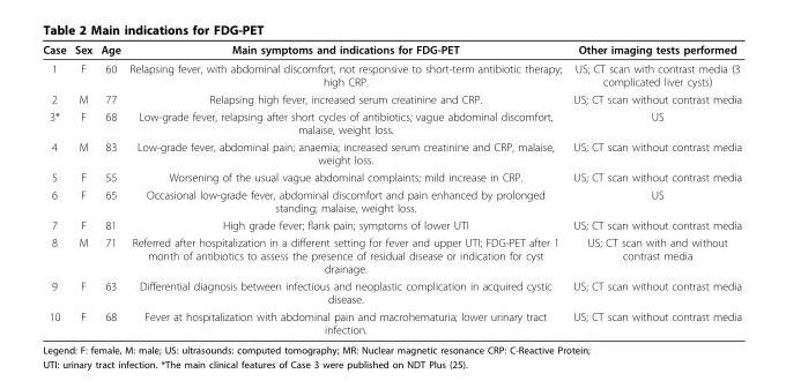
<table><thead><tr><td>Case</td><td>Sex</td><td>Age</td><td>Main symptoms and indications for FDG-PET</td><td>Other imaging tests performed</td></tr></thead><tbody><tr><td>1</td><td>F</td><td>60</td><td>Relapsing fever, with abdominal discomfort, not responsive to short-term antibiotic therapy; high CRP.</td><td>US; CT scan with contrast media (3 complicated liver cysts)</td></tr><tr><td>2</td><td>M</td><td>77</td><td>Relapsing high fever, increased serum creatinine and CRP.</td><td>US; CT scan without contrast media</td></tr><tr><td>3*</td><td>F</td><td>68</td><td>Low-grade fever, relapsing after short cycles of antibiotics; vague abdominal discomfort, malaise, weight loss.</td><td>US</td></tr><tr><td>4</td><td>M</td><td>83</td><td>Low-grade fever, abdominal pain; anaemia; increased serum creatinine and CRP, malaise, weight loss.</td><td>US; CT scan without contrast media</td></tr><tr><td>5</td><td>F</td><td>55</td><td>Worsening of the usual vague abdominal complaints; mild increase in CRP.</td><td>US; CT scan without contrast media</td></tr><tr><td>6</td><td>F</td><td>65</td><td>Occasional low-grade fever, abdominal discomfort and pain enhanced by prolonged standing; malaise, weight loss.</td><td>US</td></tr><tr><td>7</td><td>F</td><td>81</td><td>High grade fever; flank pain; symptoms of lower UTI</td><td>US; CT scan without contrast media</td></tr><tr><td>8</td><td>M</td><td>71</td><td>Referred after hospitalization in a different setting for fever and upper UTI; FDG-PET after 1 month of antibiotics to assess the presence of residual disease or indication for cyst drainage.</td><td>US; CT scan with and without contrast media</td></tr><tr><td>9</td><td>F</td><td>63</td><td>Differential diagnosis between infectious and neoplastic complication in acquired cystic disease.</td><td>US; CT scan without contrast media</td></tr><tr><td>10</td><td>F</td><td>68</td><td>Fever at hospitalization with abdominal pain and macrohematuria; lower urinary tract infection.</td><td>US; CT scan without contrast media</td></tr></tbody></table>